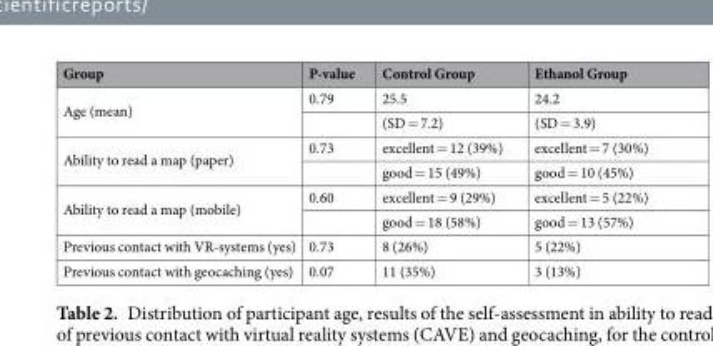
<table><thead><tr><td>Group</td><td>P-value</td><td>Control Group</td><td>Ethanol Group</td></tr></thead><tbody><tr><td rowspan="2">Age (mean)</td><td>0.79</td><td>25.5</td><td>24.2</td></tr><tr><td></td><td>(SD = 7.2)</td><td>(SD = 3.9)</td></tr><tr><td rowspan="2">Ability to read a map (paper)</td><td>0.73</td><td>excellent = 12 (39%)</td><td>excellent = 7 (30%)</td></tr><tr><td></td><td>good = 15 (49%)</td><td>good = 10 (45%)</td></tr><tr><td rowspan="2">Ability to read a map (mobile)</td><td>0.60</td><td>excellent = 9 (29%)</td><td>excellent = 5 (22%)</td></tr><tr><td></td><td>good = 18 (58%)</td><td>good = 13 (57%)</td></tr><tr><td>Previous contact with VR-systems (yes)</td><td>0.73</td><td>8 (26%)</td><td>5 (22%)</td></tr><tr><td>Previous contact with geocaching (yes)</td><td>0.07</td><td>11 (35%)</td><td>3 (13%)</td></tr></tbody></table>